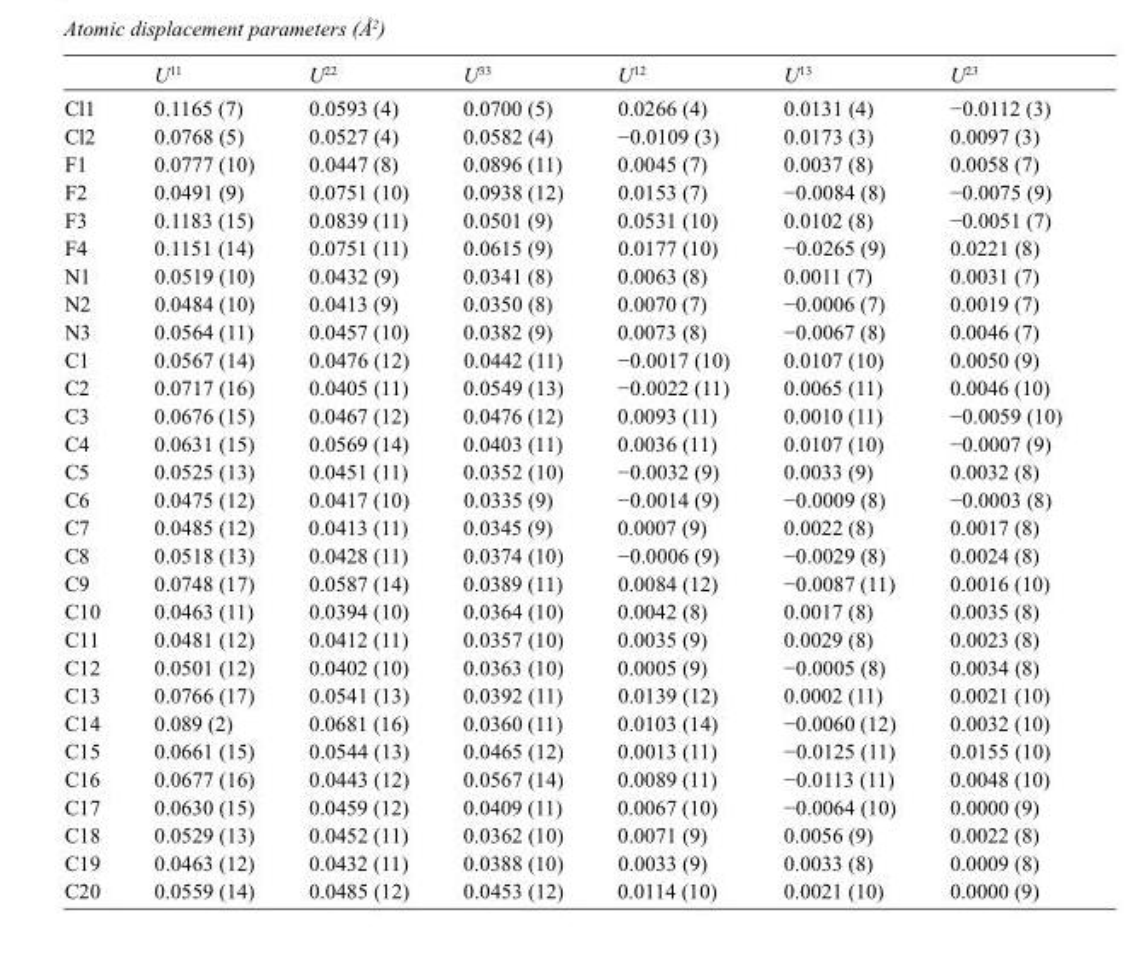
<table><thead><tr><td></td><td>U<sup>11</sup></td><td>U<sup>22</sup></td><td>U<sup>33</sup></td><td>U<sup>12</sup></td><td>U<sup>13</sup></td><td>U<sup>23</sup></td></tr></thead><tbody><tr><td>Cl1</td><td>0.1165 (7)</td><td>0.0593 (4)</td><td>0.0700 (5)</td><td>0.0266 (4)</td><td>0.0131 (4)</td><td>−0.0112 (3)</td></tr><tr><td>Cl2</td><td>0.0768 (5)</td><td>0.0527 (4)</td><td>0.0582 (4)</td><td>−0.0109 (3)</td><td>0.0173 (3)</td><td>0.0097 (3)</td></tr><tr><td>F1</td><td>0.0777 (10)</td><td>0.0447 (8)</td><td>0.0896 (11)</td><td>0.0045 (7)</td><td>0.0037 (8)</td><td>0.0058 (7)</td></tr><tr><td>F2</td><td>0.0491 (9)</td><td>0.0751 (10)</td><td>0.0938 (12)</td><td>0.0153 (7)</td><td>−0.0084 (8)</td><td>−0.0075 (9)</td></tr><tr><td>F3</td><td>0.1183 (15)</td><td>0.0839 (11)</td><td>0.0501 (9)</td><td>0.0531 (10)</td><td>0.0102 (8)</td><td>−0.0051 (7)</td></tr><tr><td>F4</td><td>0.1151 (14)</td><td>0.0751 (11)</td><td>0.0615 (9)</td><td>0.0177 (10)</td><td>−0.0265 (9)</td><td>0.0221 (8)</td></tr><tr><td>N1</td><td>0.0519 (10)</td><td>0.0432 (9)</td><td>0.0341 (8)</td><td>0.0063 (8)</td><td>0.0011 (7)</td><td>0.0031 (7)</td></tr><tr><td>N2</td><td>0.0484 (10)</td><td>0.0413 (9)</td><td>0.0350 (8)</td><td>0.0070 (7)</td><td>−0.0006 (7)</td><td>0.0019 (7)</td></tr><tr><td>N3</td><td>0.0564 (11)</td><td>0.0457 (10)</td><td>0.0382 (9)</td><td>0.0073 (8)</td><td>−0.0067 (8)</td><td>0.0046 (7)</td></tr><tr><td>C1</td><td>0.0567 (14)</td><td>0.0476 (12)</td><td>0.0442 (11)</td><td>−0.0017 (10)</td><td>0.0107 (10)</td><td>0.0050 (9)</td></tr><tr><td>C2</td><td>0.0717 (16)</td><td>0.0405 (11)</td><td>0.0549 (13)</td><td>−0.0022 (11)</td><td>0.0065 (11)</td><td>0.0046 (10)</td></tr><tr><td>C3</td><td>0.0676 (15)</td><td>0.0467 (12)</td><td>0.0476 (12)</td><td>0.0093 (11)</td><td>0.0010 (11)</td><td>−0.0059 (10)</td></tr><tr><td>C4</td><td>0.0631 (15)</td><td>0.0569 (14)</td><td>0.0403 (11)</td><td>0.0036 (11)</td><td>0.0107 (10)</td><td>−0.0007 (9)</td></tr><tr><td>C5</td><td>0.0525 (13)</td><td>0.0451 (11)</td><td>0.0352 (10)</td><td>−0.0032 (9)</td><td>0.0033 (9)</td><td>0.0032 (8)</td></tr><tr><td>C6</td><td>0.0475 (12)</td><td>0.0417 (10)</td><td>0.0335 (9)</td><td>−0.0014 (9)</td><td>−0.0009 (8)</td><td>−0.0003 (8)</td></tr><tr><td>C7</td><td>0.0485 (12)</td><td>0.0413 (11)</td><td>0.0345 (9)</td><td>0.0007 (9)</td><td>0.0022 (8)</td><td>0.0017 (8)</td></tr><tr><td>C8</td><td>0.0518 (13)</td><td>0.0428 (11)</td><td>0.0374 (10)</td><td>−0.0006 (9)</td><td>−0.0029 (8)</td><td>0.0024 (8)</td></tr><tr><td>C9</td><td>0.0748 (17)</td><td>0.0587 (14)</td><td>0.0389 (11)</td><td>0.0084 (12)</td><td>−0.0087 (11)</td><td>0.0016 (10)</td></tr><tr><td>C10</td><td>0.0463 (11)</td><td>0.0394 (10)</td><td>0.0364 (10)</td><td>0.0042 (8)</td><td>0.0017 (8)</td><td>0.0035 (8)</td></tr><tr><td>C11</td><td>0.0481 (12)</td><td>0.0412 (11)</td><td>0.0357 (10)</td><td>0.0035 (9)</td><td>0.0029 (8)</td><td>0.0023 (8)</td></tr><tr><td>C12</td><td>0.0501 (12)</td><td>0.0402 (10)</td><td>0.0363 (10)</td><td>0.0005 (9)</td><td>−0.0005 (8)</td><td>0.0034 (8)</td></tr><tr><td>C13</td><td>0.0766 (17)</td><td>0.0541 (13)</td><td>0.0392 (11)</td><td>0.0139 (12)</td><td>0.0002 (11)</td><td>0.0021 (10)</td></tr><tr><td>C14</td><td>0.089 (2)</td><td>0.0681 (16)</td><td>0.0360 (11)</td><td>0.0103 (14)</td><td>−0.0060 (12)</td><td>0.0032 (10)</td></tr><tr><td>C15</td><td>0.0661 (15)</td><td>0.0544 (13)</td><td>0.0465 (12)</td><td>0.0013 (11)</td><td>−0.0125 (11)</td><td>0.0155 (10)</td></tr><tr><td>C16</td><td>0.0677 (16)</td><td>0.0443 (12)</td><td>0.0567 (14)</td><td>0.0089 (11)</td><td>−0.0113 (11)</td><td>0.0048 (10)</td></tr><tr><td>C17</td><td>0.0630 (15)</td><td>0.0459 (12)</td><td>0.0409 (11)</td><td>0.0067 (10)</td><td>−0.0064 (10)</td><td>0.0000 (9)</td></tr><tr><td>C18</td><td>0.0529 (13)</td><td>0.0452 (11)</td><td>0.0362 (10)</td><td>0.0071 (9)</td><td>0.0056 (9)</td><td>0.0022 (8)</td></tr><tr><td>C19</td><td>0.0463 (12)</td><td>0.0432 (11)</td><td>0.0388 (10)</td><td>0.0033 (9)</td><td>0.0033 (8)</td><td>0.0009 (8)</td></tr><tr><td>C20</td><td>0.0559 (14)</td><td>0.0485 (12)</td><td>0.0453 (12)</td><td>0.0114 (10)</td><td>0.0021 (10)</td><td>0.0000 (9)</td></tr></tbody></table>